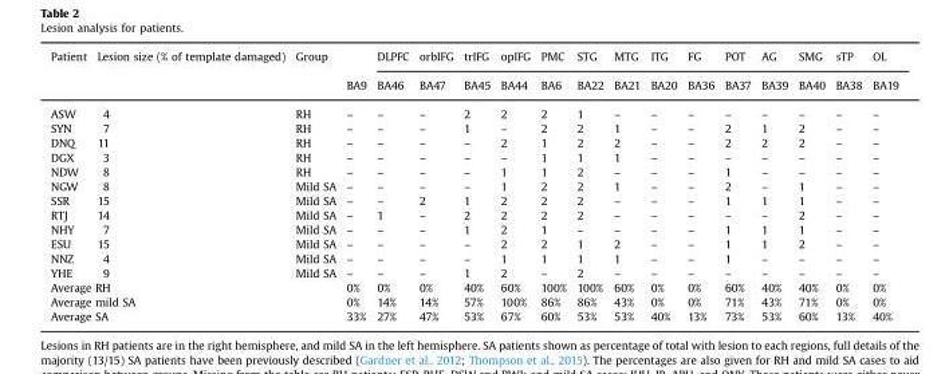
<table><thead><tr><td rowspan="2">Patient</td><td rowspan="2">Lesion size (% of template damaged)</td><td rowspan="2">Group</td><td rowspan="2">BA9</td><td rowspan="2">DLPFC BA46</td><td rowspan="2">orbIFG BA47</td><td rowspan="2">trIFG BA45</td><td rowspan="2">opIFG BA44</td><td rowspan="2">PMC BA6</td><td rowspan="2">STG BA22</td><td rowspan="2">MTG BA21</td><td rowspan="2">ITG BA20</td><td rowspan="2">FG BA36</td><td rowspan="2">POT BA37</td><td rowspan="2">AG BA39</td><td rowspan="2">SMG BA40</td><td rowspan="2">sTP BA38</td><td rowspan="2">OL BA19</td></tr><tr></tr></thead><tbody><tr><td>ASW</td><td>4</td><td>RH</td><td>–</td><td>–</td><td>–</td><td>2</td><td>2</td><td>2</td><td>1</td><td>–</td><td>–</td><td>–</td><td>–</td><td>–</td><td>–</td><td>–</td><td>–</td></tr><tr><td>SYN</td><td>7</td><td>RH</td><td>–</td><td>–</td><td>–</td><td>1</td><td>–</td><td>2</td><td>2</td><td>1</td><td>–</td><td>–</td><td>2</td><td>1</td><td>2</td><td>–</td><td>–</td></tr><tr><td>DNQ</td><td>11</td><td>RH</td><td>–</td><td>–</td><td>–</td><td>–</td><td>2</td><td>1</td><td>2</td><td>2</td><td>–</td><td>–</td><td>2</td><td>2</td><td>2</td><td>–</td><td>–</td></tr><tr><td>DGX</td><td>3</td><td>RH</td><td>–</td><td>–</td><td>–</td><td>–</td><td>–</td><td>1</td><td>1</td><td>1</td><td>–</td><td>–</td><td>–</td><td>–</td><td>–</td><td>–</td><td>–</td></tr><tr><td>NDW</td><td>8</td><td>RH</td><td>–</td><td>–</td><td>–</td><td>–</td><td>1</td><td>1</td><td>2</td><td>–</td><td>–</td><td>–</td><td>1</td><td>–</td><td>–</td><td>–</td><td>–</td></tr><tr><td>NGW</td><td>8</td><td>Mild SA</td><td>–</td><td>–</td><td>–</td><td>–</td><td>1</td><td>2</td><td>2</td><td>1</td><td>–</td><td>–</td><td>2</td><td>–</td><td>1</td><td>–</td><td>–</td></tr><tr><td>SSR</td><td>15</td><td>Mild SA</td><td>–</td><td>–</td><td>2</td><td>1</td><td>2</td><td>2</td><td>2</td><td>–</td><td>–</td><td>–</td><td>1</td><td>1</td><td>1</td><td>–</td><td>–</td></tr><tr><td>RTJ</td><td>14</td><td>Mild SA</td><td>–</td><td>1</td><td>–</td><td>2</td><td>2</td><td>2</td><td>2</td><td>–</td><td>–</td><td>–</td><td>–</td><td>–</td><td>2</td><td>–</td><td>–</td></tr><tr><td>NHY</td><td>7</td><td>Mild SA</td><td>–</td><td>–</td><td>–</td><td>1</td><td>2</td><td>1</td><td>–</td><td>–</td><td>–</td><td>–</td><td>1</td><td>1</td><td>1</td><td>–</td><td>–</td></tr><tr><td>ESU</td><td>15</td><td>Mild SA</td><td>–</td><td>–</td><td>–</td><td>–</td><td>2</td><td>2</td><td>1</td><td>2</td><td>–</td><td>–</td><td>1</td><td>1</td><td>2</td><td>–</td><td>–</td></tr><tr><td>NNZ</td><td>4</td><td>Mild SA</td><td>–</td><td>–</td><td>–</td><td>–</td><td>1</td><td>1</td><td>1</td><td>1</td><td>–</td><td>–</td><td>1</td><td>–</td><td>–</td><td>–</td><td>–</td></tr><tr><td>YHE</td><td>9</td><td>Mild SA</td><td>–</td><td>–</td><td>–</td><td>1</td><td>2</td><td>–</td><td>2</td><td>–</td><td>–</td><td>–</td><td>–</td><td>–</td><td>–</td><td>–</td><td>–</td></tr><tr><td colspan="3">Average RH</td><td>0%</td><td>0%</td><td>0%</td><td>40%</td><td>60%</td><td>100%</td><td>100%</td><td>60%</td><td>0%</td><td>0%</td><td>60%</td><td>40%</td><td>40%</td><td>0%</td><td>0%</td></tr><tr><td colspan="3">Average mild SA</td><td>0%</td><td>14%</td><td>14%</td><td>57%</td><td>100%</td><td>86%</td><td>86%</td><td>43%</td><td>0%</td><td>0%</td><td>71%</td><td>43%</td><td>71%</td><td>0%</td><td>0%</td></tr><tr><td colspan="3">Average SA</td><td>33%</td><td>27%</td><td>47%</td><td>53%</td><td>67%</td><td>60%</td><td>53%</td><td>53%</td><td>40%</td><td>13%</td><td>73%</td><td>53%</td><td>60%</td><td>13%</td><td>40%</td></tr></tbody></table>